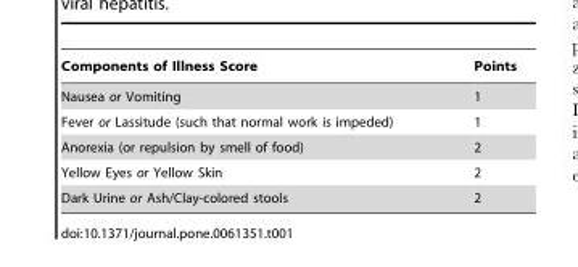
<table><thead><tr><td>Components of Illness Score</td><td>Points</td></tr></thead><tbody><tr><td>Nausea or Vomiting</td><td>1</td></tr><tr><td>Fever or Lassitude (such that normal work is impeded)</td><td>1</td></tr><tr><td>Anorexia (or repulsion by smell of food)</td><td>2</td></tr><tr><td>Yellow Eyes or Yellow Skin</td><td>2</td></tr><tr><td>Dark Urine or Ash/Clay-colored stools</td><td>2</td></tr></tbody></table>